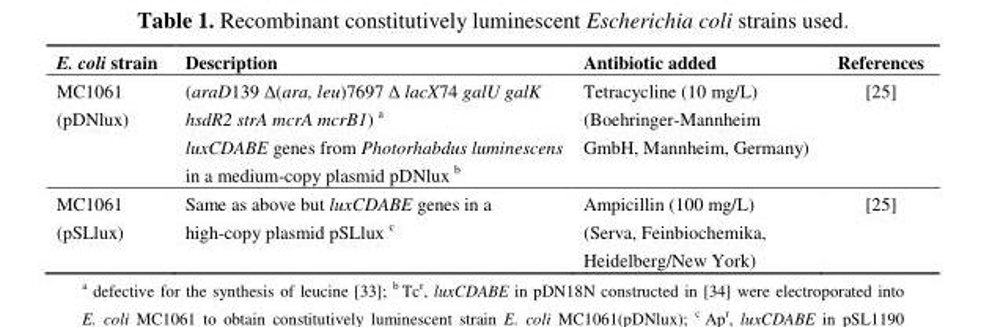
<table><thead><tr><td>E. coli strain</td><td>Description</td><td>Antibiotic added</td><td>References</td></tr></thead><tbody><tr><td>MC1061 (pDNlux)</td><td>(araD139 ∆(ara, leu)7697 ∆ lacX74 galU galK hsdR2 strA mcrA mcrB1) a luxCDABE genes from Photorhabdus luminescens in a medium-copy plasmid pDNlux b</td><td>Tetracycline (10 mg/L) (Boehringer-Mannheim GmbH, Mannheim, Germany)</td><td>[25]</td></tr><tr><td>MC1061 (pSLlux)</td><td>Same as above but luxCDABE genes in a high-copy plasmid pSLlux <sup>c</sup></td><td>Ampicillin (100 mg/L) (Serva, Feinbiochemika, Heidelberg/New York)</td><td>[25]</td></tr></tbody></table>